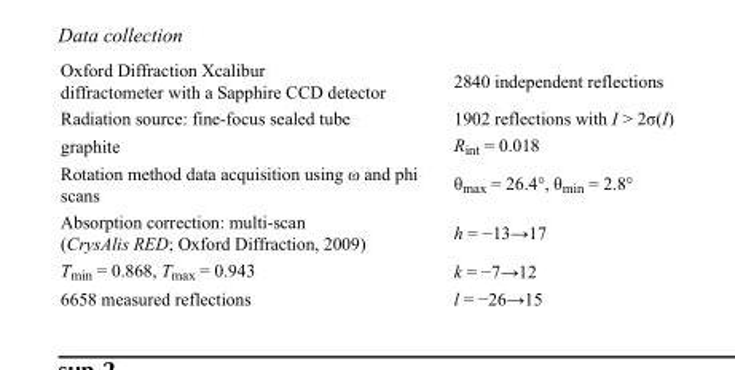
<table><tbody><tr><td>Oxford Diffraction Xcalibur diffractometer with a Sapphire CCD detector</td><td>2840 independent reflections</td></tr><tr><td>Radiation source: fine-focus sealed tube</td><td>1902 reflections with I &gt; 2σ(I)</td></tr><tr><td>graphite</td><td>R<sub>int</sub> = 0.018</td></tr><tr><td>Rotation method data acquisition using ω and phi scans</td><td>θ<sub>max</sub> = 26.4°, θ<sub>min</sub> = 2.8°</td></tr><tr><td>Absorption correction: multi-scan (CrysAlis RED; Oxford Diffraction, 2009)</td><td>h = −13→17</td></tr><tr><td>T<sub>min</sub> = 0.868, T<sub>max</sub> = 0.943</td><td>k = −7→12</td></tr><tr><td>6658 measured reflections</td><td>l = −26→15</td></tr></tbody></table>